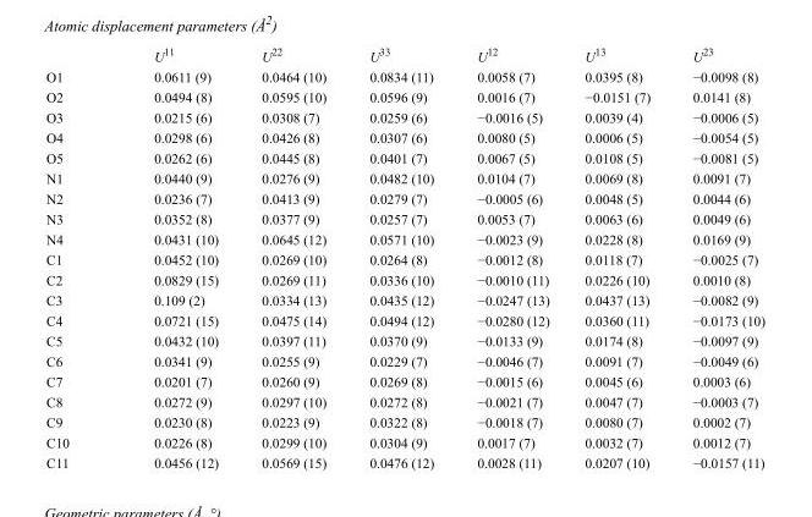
<table><thead><tr><td></td><td>U<sup>11</sup></td><td>U<sup>22</sup></td><td>U<sup>33</sup></td><td>U<sup>12</sup></td><td>U<sup>13</sup></td><td>U<sup>23</sup></td></tr></thead><tbody><tr><td>O1</td><td>0.0611 (9)</td><td>0.0464 (10)</td><td>0.0834 (11)</td><td>0.0058 (7)</td><td>0.0395 (8)</td><td>−0.0098 (8)</td></tr><tr><td>O2</td><td>0.0494 (8)</td><td>0.0595 (10)</td><td>0.0596 (9)</td><td>0.0016 (7)</td><td>−0.0151 (7)</td><td>0.0141 (8)</td></tr><tr><td>O3</td><td>0.0215 (6)</td><td>0.0308 (7)</td><td>0.0259 (6)</td><td>−0.0016 (5)</td><td>0.0039 (4)</td><td>−0.0006 (5)</td></tr><tr><td>O4</td><td>0.0298 (6)</td><td>0.0426 (8)</td><td>0.0307 (6)</td><td>0.0080 (5)</td><td>0.0006 (5)</td><td>−0.0054 (5)</td></tr><tr><td>O5</td><td>0.0262 (6)</td><td>0.0445 (8)</td><td>0.0401 (7)</td><td>0.0067 (5)</td><td>0.0108 (5)</td><td>−0.0081 (5)</td></tr><tr><td>N1</td><td>0.0440 (9)</td><td>0.0276 (9)</td><td>0.0482 (10)</td><td>0.0104 (7)</td><td>0.0069 (8)</td><td>0.0091 (7)</td></tr><tr><td>N2</td><td>0.0236 (7)</td><td>0.0413 (9)</td><td>0.0279 (7)</td><td>−0.0005 (6)</td><td>0.0048 (5)</td><td>0.0044 (6)</td></tr><tr><td>N3</td><td>0.0352 (8)</td><td>0.0377 (9)</td><td>0.0257 (7)</td><td>0.0053 (7)</td><td>0.0063 (6)</td><td>0.0049 (6)</td></tr><tr><td>N4</td><td>0.0431 (10)</td><td>0.0645 (12)</td><td>0.0571 (10)</td><td>−0.0023 (9)</td><td>0.0228 (8)</td><td>0.0169 (9)</td></tr><tr><td>C1</td><td>0.0452 (10)</td><td>0.0269 (10)</td><td>0.0264 (8)</td><td>−0.0012 (8)</td><td>0.0118 (7)</td><td>−0.0025 (7)</td></tr><tr><td>C2</td><td>0.0829 (15)</td><td>0.0269 (11)</td><td>0.0336 (10)</td><td>−0.0010 (11)</td><td>0.0226 (10)</td><td>0.0010 (8)</td></tr><tr><td>C3</td><td>0.109 (2)</td><td>0.0334 (13)</td><td>0.0435 (12)</td><td>−0.0247 (13)</td><td>0.0437 (13)</td><td>−0.0082 (9)</td></tr><tr><td>C4</td><td>0.0721 (15)</td><td>0.0475 (14)</td><td>0.0494 (12)</td><td>−0.0280 (12)</td><td>0.0360 (11)</td><td>−0.0173 (10)</td></tr><tr><td>C5</td><td>0.0432 (10)</td><td>0.0397 (11)</td><td>0.0370 (9)</td><td>−0.0133 (9)</td><td>0.0174 (8)</td><td>−0.0097 (9)</td></tr><tr><td>C6</td><td>0.0341 (9)</td><td>0.0255 (9)</td><td>0.0229 (7)</td><td>−0.0046 (7)</td><td>0.0091 (7)</td><td>−0.0049 (6)</td></tr><tr><td>C7</td><td>0.0201 (7)</td><td>0.0260 (9)</td><td>0.0269 (8)</td><td>−0.0015 (6)</td><td>0.0045 (6)</td><td>0.0003 (6)</td></tr><tr><td>C8</td><td>0.0272 (9)</td><td>0.0297 (10)</td><td>0.0272 (8)</td><td>−0.0021 (7)</td><td>0.0047 (7)</td><td>−0.0003 (7)</td></tr><tr><td>C9</td><td>0.0230 (8)</td><td>0.0223 (9)</td><td>0.0322 (8)</td><td>−0.0018 (7)</td><td>0.0080 (7)</td><td>0.0002 (7)</td></tr><tr><td>C10</td><td>0.0226 (8)</td><td>0.0299 (10)</td><td>0.0304 (9)</td><td>0.0017 (7)</td><td>0.0032 (7)</td><td>0.0012 (7)</td></tr><tr><td>C11</td><td>0.0456 (12)</td><td>0.0569 (15)</td><td>0.0476 (12)</td><td>0.0028 (11)</td><td>0.0207 (10)</td><td>−0.0157 (11)</td></tr></tbody></table>